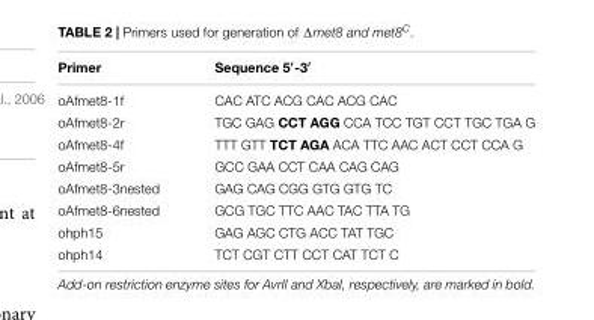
<table><thead><tr><td>Primer</td><td>Sequence 5′-3′</td></tr></thead><tbody><tr><td>oAfmet8-1f</td><td>CAC ATC ACG CAC ACG CAC</td></tr><tr><td>oAfmet8-2r</td><td>TGC GAG CCT AGG CCA TCC TGT CCT TGC TGA G</td></tr><tr><td>oAfmet8-4f</td><td>TTT GTT TCT AGA ACA TTC AAC ACT CCT CCA G</td></tr><tr><td>oAfmet8-5r</td><td>GCC GAA CCT CAA CAG CAG</td></tr><tr><td>oAfmet8-3nested</td><td>GAG CAG CGG GTG GTG TC</td></tr><tr><td>oAfmet8-6nested</td><td>GCG TGC TTC AAC TAC TTA TG</td></tr><tr><td>ohph15</td><td>GAG AGC CTG ACC TAT TGC</td></tr><tr><td>ohph14</td><td>TCT CGT CTT CCT CAT TCT C</td></tr></tbody></table>